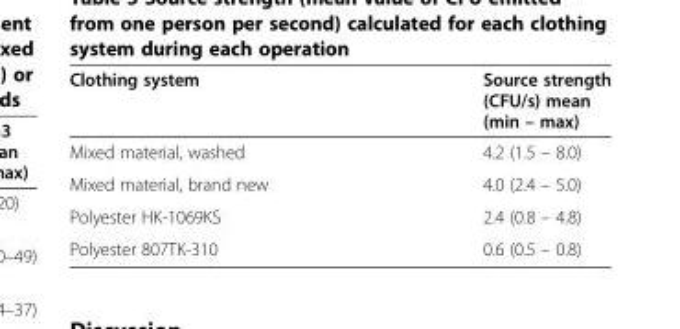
<table><thead><tr><td>Clothing system</td><td>Source strength (CFU/s) mean (min – max)</td></tr></thead><tbody><tr><td>Mixed material, washed</td><td>4.2 (1.5 – 8.0)</td></tr><tr><td>Mixed material, brand new</td><td>4.0 (2.4 – 5.0)</td></tr><tr><td>Polyester HK-1069KS</td><td>2.4 (0.8 – 4.8)</td></tr><tr><td>Polyester 807TK-310</td><td>0.6 (0.5 – 0.8)</td></tr></tbody></table>